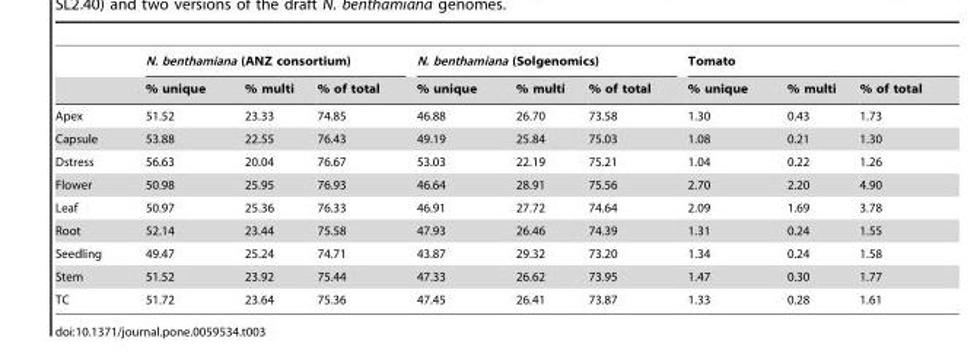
<table><thead><tr><td rowspan="2"></td><td colspan="3">N. benthamiana (ANZ consortium)</td><td colspan="3">N. benthamiana (Solgenomics)</td><td colspan="3">Tomato</td></tr><tr><td>% unique</td><td>% multi</td><td>% of total</td><td>% unique</td><td>% multi</td><td>% of total</td><td>% unique</td><td>% multi</td><td>% of total</td></tr></thead><tbody><tr><td>Apex</td><td>51.52</td><td>23.33</td><td>74.85</td><td>46.88</td><td>26.70</td><td>73.58</td><td>1.30</td><td>0.43</td><td>1.73</td></tr><tr><td>Capsule</td><td>53.88</td><td>22.55</td><td>76.43</td><td>49.19</td><td>25.84</td><td>75.03</td><td>1.08</td><td>0.21</td><td>1.30</td></tr><tr><td>Dstress</td><td>56.63</td><td>20.04</td><td>76.67</td><td>53.03</td><td>22.19</td><td>75.21</td><td>1.04</td><td>0.22</td><td>1.26</td></tr><tr><td>Flower</td><td>50.98</td><td>25.95</td><td>76.93</td><td>46.64</td><td>28.91</td><td>75.56</td><td>2.70</td><td>2.20</td><td>4.90</td></tr><tr><td>Leaf</td><td>50.97</td><td>25.36</td><td>76.33</td><td>46.91</td><td>27.72</td><td>74.64</td><td>2.09</td><td>1.69</td><td>3.78</td></tr><tr><td>Root</td><td>52.14</td><td>23.44</td><td>75.58</td><td>47.93</td><td>26.46</td><td>74.39</td><td>1.31</td><td>0.24</td><td>1.55</td></tr><tr><td>Seedling</td><td>49.47</td><td>25.24</td><td>74.71</td><td>43.87</td><td>29.32</td><td>73.20</td><td>1.34</td><td>0.24</td><td>1.58</td></tr><tr><td>Stem</td><td>51.52</td><td>23.92</td><td>75.44</td><td>47.33</td><td>26.62</td><td>73.95</td><td>1.47</td><td>0.30</td><td>1.77</td></tr><tr><td>TC</td><td>51.72</td><td>23.64</td><td>75.36</td><td>47.45</td><td>26.41</td><td>73.87</td><td>1.33</td><td>0.28</td><td>1.61</td></tr></tbody></table>